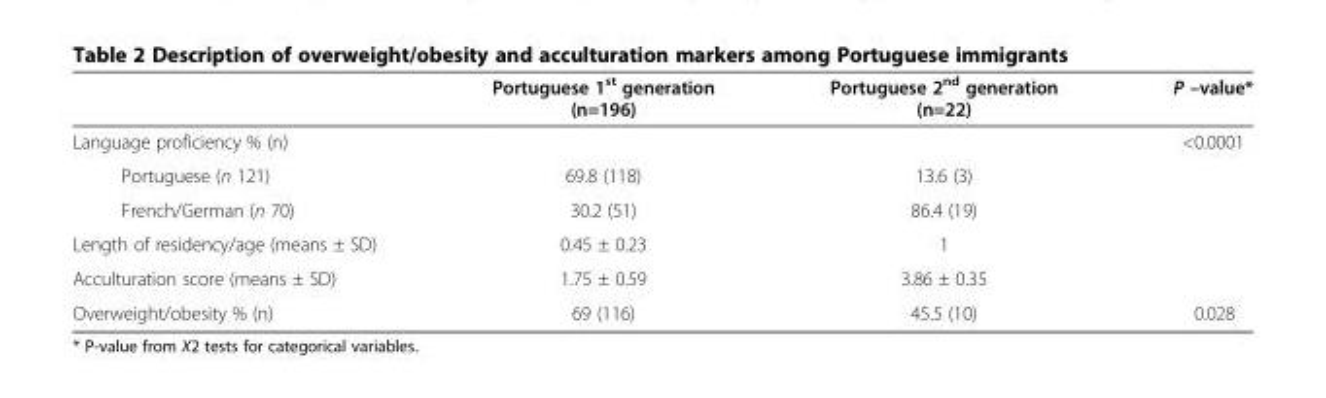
<table><thead><tr><td></td><td>Portuguese 1<sup>st</sup> generation (n=196)</td><td>Portuguese 2<sup>nd</sup> generation (n=22)</td><td>P –value*</td></tr></thead><tbody><tr><td>Language proficiency % (n)</td><td></td><td></td><td>&lt;0.0001</td></tr><tr><td>Portuguese (n 121)</td><td>69.8 (118)</td><td>13.6 (3)</td><td></td></tr><tr><td>French/German (n 70)</td><td>30.2 (51)</td><td>86.4 (19)</td><td></td></tr><tr><td>Length of residency/age (means ± SD)</td><td>0.45 ± 0.23</td><td>1</td><td></td></tr><tr><td>Acculturation score (means ± SD)</td><td>1.75 ± 0.59</td><td>3.86 ± 0.35</td><td></td></tr><tr><td>Overweight/obesity % (n)</td><td>69 (116)</td><td>45.5 (10)</td><td>0.028</td></tr></tbody></table>